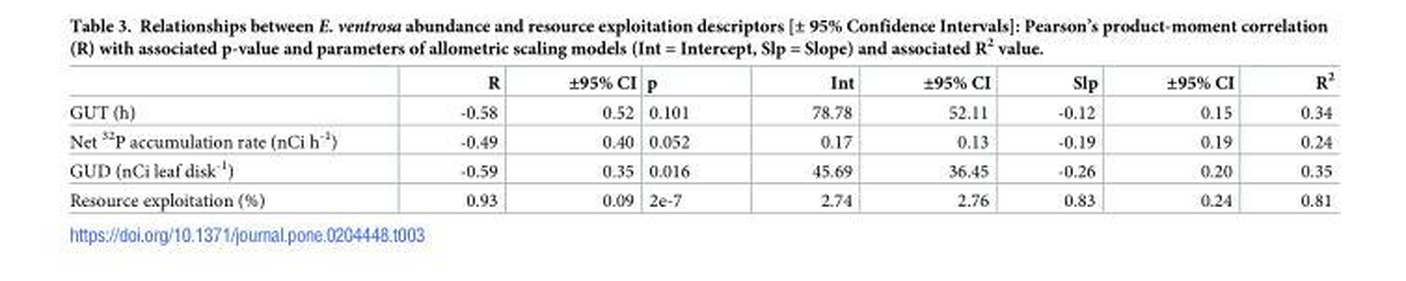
<table><thead><tr><td></td><td>R</td><td>±95% CI</td><td>p</td><td>Int</td><td>±95% CI</td><td>Slp</td><td>±95% CI</td><td>R<sup>2</sup></td></tr></thead><tbody><tr><td>GUT (h)</td><td>-0.58</td><td>0.52</td><td>0.101</td><td>78.78</td><td>52.11</td><td>-0.12</td><td>0.15</td><td>0.34</td></tr><tr><td>Net <sup>32</sup>P accumulation rate (nCi h<sup>-1</sup>)</td><td>-0.49</td><td>0.40</td><td>0.052</td><td>0.17</td><td>0.13</td><td>-0.19</td><td>0.19</td><td>0.24</td></tr><tr><td>GUD (nCi leaf disk<sup>-1</sup>)</td><td>-0.59</td><td>0.35</td><td>0.016</td><td>45.69</td><td>36.45</td><td>-0.26</td><td>0.20</td><td>0.35</td></tr><tr><td>Resource exploitation (%)</td><td>0.93</td><td>0.09</td><td>2e-7</td><td>2.74</td><td>2.76</td><td>0.83</td><td>0.24</td><td>0.81</td></tr></tbody></table>